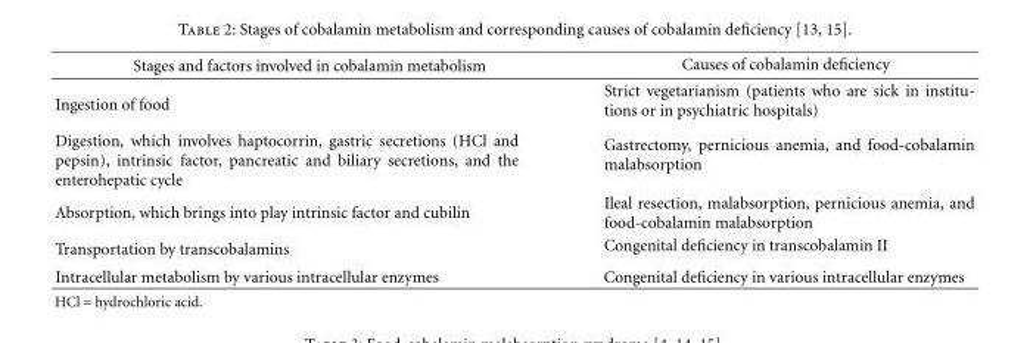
<table><thead><tr><td>Stages and factors involved in cobalamin metabolism</td><td>Causes of cobalamin deficiency</td></tr></thead><tbody><tr><td>Ingestion of food</td><td>Strict vegetarianism (patients who are sick in institu- tions or in psychiatric hospitals)</td></tr><tr><td>Digestion, which involves haptocorrin, gastric secretions (HCl and pepsin), intrinsic factor, pancreatic and biliary secretions, and the enterohepatic cycle</td><td>Gastrectomy, pernicious anemia, and food-cobalamin malabsorption</td></tr><tr><td>Absorption, which brings into play intrinsic factor and cubilin</td><td>Ileal resection, malabsorption, pernicious anemia, and food-cobalamin malabsorption</td></tr><tr><td>Transportation by transcobalamins</td><td>Congenital deficiency in transcobalamin II</td></tr><tr><td>Intracellular metabolism by various intracellular enzymes</td><td>Congenital deficiency in various intracellular enzymes</td></tr></tbody></table>